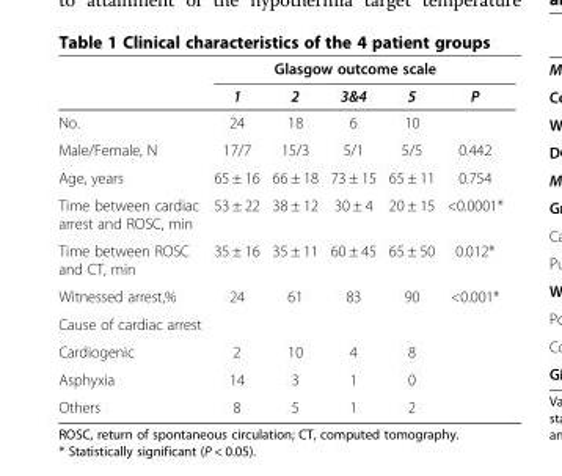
<table><thead><tr><td rowspan="2"></td><td colspan="5">Glasgow outcome scale</td></tr><tr><td>1</td><td>2</td><td>3&amp;4</td><td>5</td><td>P</td></tr></thead><tbody><tr><td>No.</td><td>24</td><td>18</td><td>6</td><td>10</td><td></td></tr><tr><td>Male/Female, N</td><td>17/7</td><td>15/3</td><td>5/1</td><td>5/5</td><td>0.442</td></tr><tr><td>Age, years</td><td>65 ± 16</td><td>66 ± 18</td><td>73 ± 15</td><td>65 ± 11</td><td>0.754</td></tr><tr><td>Time between cardiac arrest and ROSC, min</td><td>53 ± 22</td><td>38 ± 12</td><td>30 ± 4</td><td>20 ± 15</td><td>&lt;0.0001*</td></tr><tr><td>Time between ROSC and CT, min</td><td>35 ± 16</td><td>35 ± 11</td><td>60 ± 45</td><td>65 ± 50</td><td>0.012*</td></tr><tr><td>Witnessed arrest,%</td><td>24</td><td>61</td><td>83</td><td>90</td><td>&lt;0.001*</td></tr><tr><td colspan="5">Cause of cardiac arrest</td><td rowspan="4"></td></tr><tr><td>Cardiogenic</td><td>2</td><td>10</td><td>4</td><td>8</td></tr><tr><td>Asphyxia</td><td>14</td><td>3</td><td>1</td><td>0</td></tr><tr><td>Others</td><td>8</td><td>5</td><td>1</td><td>2</td></tr></tbody></table>